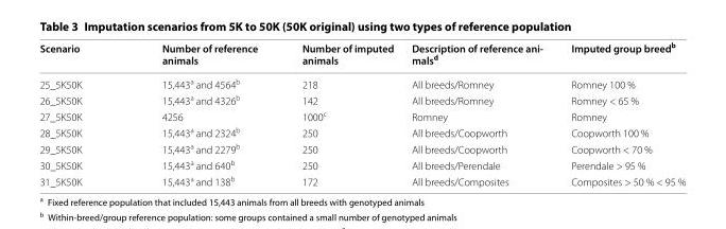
<table><thead><tr><td>Scenario</td><td>Number of reference animals</td><td>Number of imputed animals</td><td>Description of reference ani‑ malsd</td><td>Imputed group breed<sup>b</sup></td></tr></thead><tbody><tr><td>25_5K50K</td><td>15,443<sup>a</sup> and 4564<sup>b</sup></td><td>218</td><td>All breeds/Romney</td><td>Romney 100 %</td></tr><tr><td>26_5K50K</td><td>15,443<sup>a</sup> and 4326<sup>b</sup></td><td>142</td><td>All breeds/Romney</td><td>Romney &lt; 65 %</td></tr><tr><td>27_5K50K</td><td>4256</td><td>1000<sup>c</sup></td><td>Romney</td><td>Romney</td></tr><tr><td>28_5K50K</td><td>15,443<sup>a</sup> and 2324<sup>b</sup></td><td>250</td><td>All breeds/Coopworth</td><td>Coopworth 100 %</td></tr><tr><td>29_5K50K</td><td>15,443<sup>a</sup> and 2279<sup>b</sup></td><td>250</td><td>All breeds/Coopworth</td><td>Coopworth &lt; 70 %</td></tr><tr><td>30_5K50K</td><td>15,443<sup>a</sup> and 640<sup>b</sup></td><td>250</td><td>All breeds/Perendale</td><td>Perendale &gt; 95 %</td></tr><tr><td>31_5K50K</td><td>15,443<sup>a</sup> and 138<sup>b</sup></td><td>172</td><td>All breeds/Composites</td><td>Composites &gt; 50 % &lt; 95 %</td></tr></tbody></table>